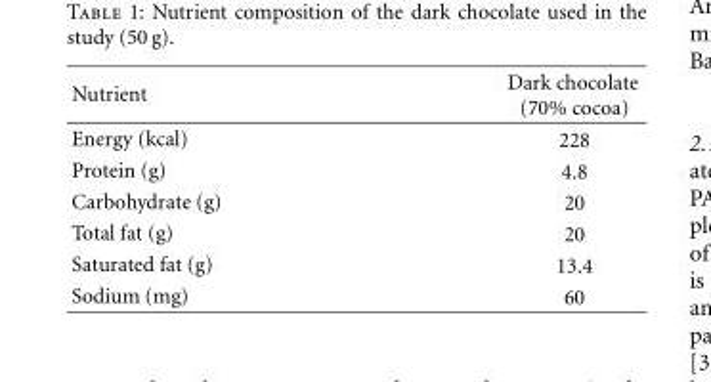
<table><thead><tr><td>Nutrient</td><td>Dark chocolate (70% cocoa)</td></tr></thead><tbody><tr><td>Energy (kcal)</td><td>228</td></tr><tr><td>Protein (g)</td><td>4.8</td></tr><tr><td>Carbohydrate (g)</td><td>20</td></tr><tr><td>Total fat (g)</td><td>20</td></tr><tr><td>Saturated fat (g)</td><td>13.4</td></tr><tr><td>Sodium (mg)</td><td>60</td></tr></tbody></table>